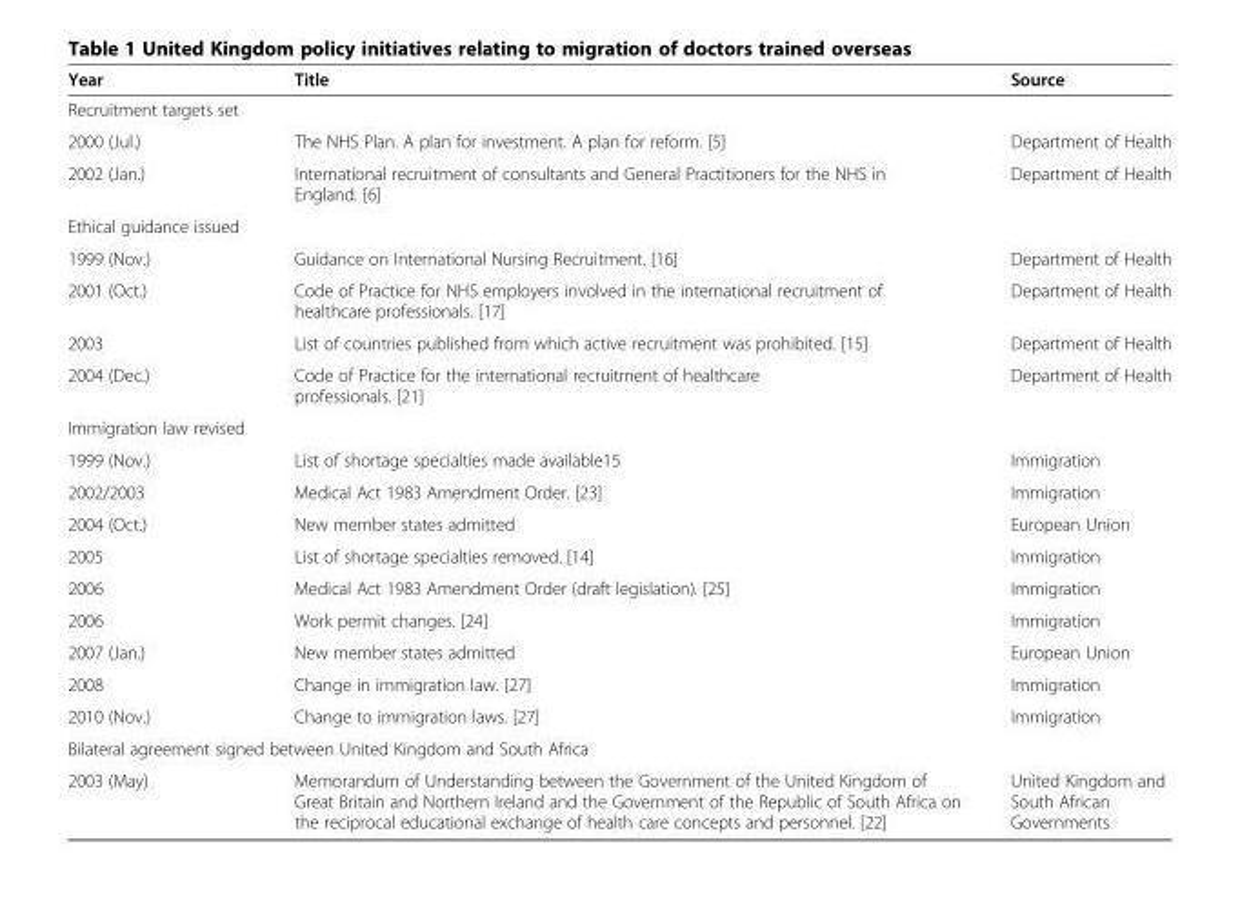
<table><thead><tr><td>Year</td><td>Title</td><td>Source</td></tr></thead><tbody><tr><td colspan="3">Recruitment targets set</td></tr><tr><td>2000 (Jul.)</td><td>The NHS Plan. A plan for investment. A plan for reform. [5]</td><td>Department of Health</td></tr><tr><td>2002 (Jan.)</td><td>International recruitment of consultants and General Practitioners for the NHS in England. [6]</td><td>Department of Health</td></tr><tr><td colspan="3">Ethical guidance issued</td></tr><tr><td>1999 (Nov.)</td><td>Guidance on International Nursing Recruitment. [16]</td><td>Department of Health</td></tr><tr><td>2001 (Oct.)</td><td>Code of Practice for NHS employers involved in the international recruitment of healthcare professionals. [17]</td><td>Department of Health</td></tr><tr><td>2003</td><td>List of countries published from which active recruitment was prohibited. [15]</td><td>Department of Health</td></tr><tr><td>2004 (Dec.)</td><td>Code of Practice for the international recruitment of healthcare professionals. [21]</td><td>Department of Health</td></tr><tr><td colspan="3">Immigration law revised</td></tr><tr><td>1999 (Nov.)</td><td>List of shortage specialties made available15</td><td>Immigration</td></tr><tr><td>2002/2003</td><td>Medical Act 1983 Amendment Order. [23]</td><td>Immigration</td></tr><tr><td>2004 (Oct.)</td><td>New member states admitted</td><td>European Union</td></tr><tr><td>2005</td><td>List of shortage specialties removed. [14]</td><td>Immigration</td></tr><tr><td>2006</td><td>Medical Act 1983 Amendment Order (draft legislation). [25]</td><td>Immigration</td></tr><tr><td>2006</td><td>Work permit changes. [24]</td><td>Immigration</td></tr><tr><td>2007 (Jan.)</td><td>New member states admitted</td><td>European Union</td></tr><tr><td>2008</td><td>Change in immigration law. [27]</td><td>Immigration</td></tr><tr><td>2010 (Nov.)</td><td>Change to immigration laws. [27]</td><td>Immigration</td></tr><tr><td colspan="3">Bilateral agreement signed between United Kingdom and South Africa</td></tr><tr><td>2003 (May)</td><td>Memorandum of Understanding between the Government of the United Kingdom of Great Britain and Northern Ireland and the Government of the Republic of South Africa on the reciprocal educational exchange of health care concepts and personnel. [22]</td><td>United Kingdom and South African Governments</td></tr></tbody></table>